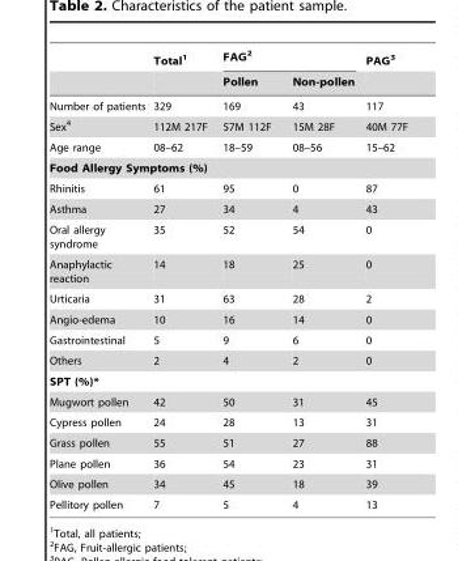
<table><thead><tr><td rowspan="2"></td><td rowspan="2">Total<sup>1</sup></td><td colspan="2">FAG<sup>2</sup></td><td rowspan="2">PAG<sup>3</sup></td></tr><tr><td>Pollen</td><td>Non-pollen</td></tr></thead><tbody><tr><td>Number of patients</td><td>329</td><td>169</td><td>43</td><td>117</td></tr><tr><td>Sex<sup>4</sup></td><td>112M 217F</td><td>57M 112F</td><td>15M 28F</td><td>40M 77F</td></tr><tr><td>Age range</td><td>08–62</td><td>18–59</td><td>08–56</td><td>15–62</td></tr><tr><td colspan="5">Food Allergy Symptoms (%)</td></tr><tr><td>Rhinitis</td><td>61</td><td>95</td><td>0</td><td>87</td></tr><tr><td>Asthma</td><td>27</td><td>34</td><td>4</td><td>43</td></tr><tr><td>Oral allergy syndrome</td><td>35</td><td>52</td><td>54</td><td>0</td></tr><tr><td>Anaphylactic reaction</td><td>14</td><td>18</td><td>25</td><td>0</td></tr><tr><td>Urticaria</td><td>31</td><td>63</td><td>28</td><td>2</td></tr><tr><td>Angio-edema</td><td>10</td><td>16</td><td>14</td><td>0</td></tr><tr><td>Gastrointestinal</td><td>5</td><td>9</td><td>6</td><td>0</td></tr><tr><td>Others</td><td>2</td><td>4</td><td>2</td><td>0</td></tr><tr><td colspan="5">SPT (%)*</td></tr><tr><td>Mugwort pollen</td><td>42</td><td>50</td><td>31</td><td>45</td></tr><tr><td>Cypress pollen</td><td>24</td><td>28</td><td>13</td><td>31</td></tr><tr><td>Grass pollen</td><td>55</td><td>51</td><td>27</td><td>88</td></tr><tr><td>Plane pollen</td><td>36</td><td>54</td><td>23</td><td>31</td></tr><tr><td>Olive pollen</td><td>34</td><td>45</td><td>18</td><td>39</td></tr><tr><td>Pellitory pollen</td><td>7</td><td>5</td><td>4</td><td>13</td></tr></tbody></table>